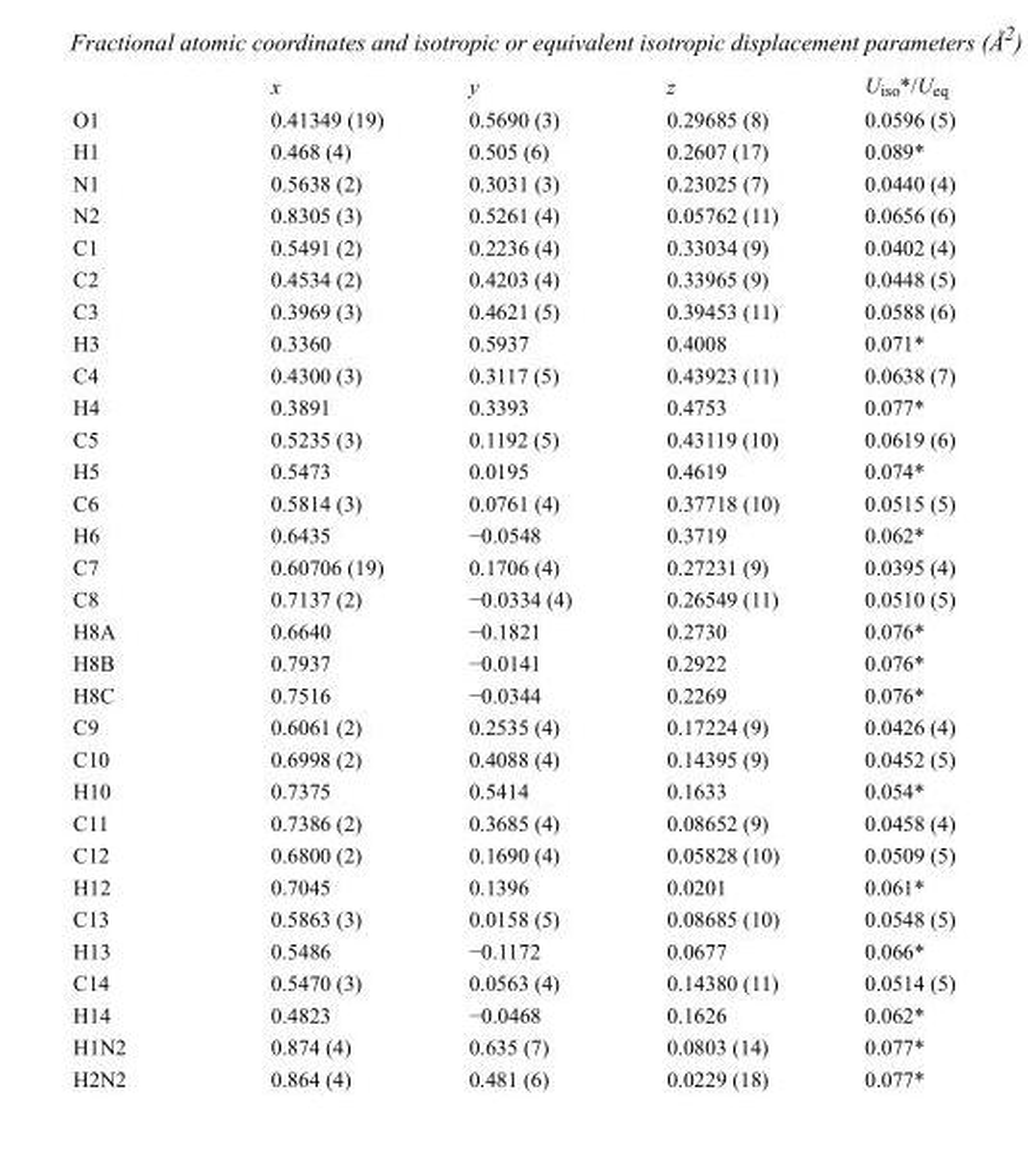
<table><thead><tr><td></td><td>x</td><td>y</td><td>z</td><td>U<sub>iso</sub>*/U<sub>eq</sub></td></tr></thead><tbody><tr><td>O1</td><td>0.41349 (19)</td><td>0.5690 (3)</td><td>0.29685 (8)</td><td>0.0596 (5)</td></tr><tr><td>H1</td><td>0.468 (4)</td><td>0.505 (6)</td><td>0.2607 (17)</td><td>0.089*</td></tr><tr><td>N1</td><td>0.5638 (2)</td><td>0.3031 (3)</td><td>0.23025 (7)</td><td>0.0440 (4)</td></tr><tr><td>N2</td><td>0.8305 (3)</td><td>0.5261 (4)</td><td>0.05762 (11)</td><td>0.0656 (6)</td></tr><tr><td>C1</td><td>0.5491 (2)</td><td>0.2236 (4)</td><td>0.33034 (9)</td><td>0.0402 (4)</td></tr><tr><td>C2</td><td>0.4534 (2)</td><td>0.4203 (4)</td><td>0.33965 (9)</td><td>0.0448 (5)</td></tr><tr><td>C3</td><td>0.3969 (3)</td><td>0.4621 (5)</td><td>0.39453 (11)</td><td>0.0588 (6)</td></tr><tr><td>H3</td><td>0.3360</td><td>0.5937</td><td>0.4008</td><td>0.071*</td></tr><tr><td>C4</td><td>0.4300 (3)</td><td>0.3117 (5)</td><td>0.43923 (11)</td><td>0.0638 (7)</td></tr><tr><td>H4</td><td>0.3891</td><td>0.3393</td><td>0.4753</td><td>0.077*</td></tr><tr><td>C5</td><td>0.5235 (3)</td><td>0.1192 (5)</td><td>0.43119 (10)</td><td>0.0619 (6)</td></tr><tr><td>H5</td><td>0.5473</td><td>0.0195</td><td>0.4619</td><td>0.074*</td></tr><tr><td>C6</td><td>0.5814 (3)</td><td>0.0761 (4)</td><td>0.37718 (10)</td><td>0.0515 (5)</td></tr><tr><td>H6</td><td>0.6435</td><td>−0.0548</td><td>0.3719</td><td>0.062*</td></tr><tr><td>C7</td><td>0.60706 (19)</td><td>0.1706 (4)</td><td>0.27231 (9)</td><td>0.0395 (4)</td></tr><tr><td>C8</td><td>0.7137 (2)</td><td>−0.0334 (4)</td><td>0.26549 (11)</td><td>0.0510 (5)</td></tr><tr><td>H8A</td><td>0.6640</td><td>−0.1821</td><td>0.2730</td><td>0.076*</td></tr><tr><td>H8B</td><td>0.7937</td><td>−0.0141</td><td>0.2922</td><td>0.076*</td></tr><tr><td>H8C</td><td>0.7516</td><td>−0.0344</td><td>0.2269</td><td>0.076*</td></tr><tr><td>C9</td><td>0.6061 (2)</td><td>0.2535 (4)</td><td>0.17224 (9)</td><td>0.0426 (4)</td></tr><tr><td>C10</td><td>0.6998 (2)</td><td>0.4088 (4)</td><td>0.14395 (9)</td><td>0.0452 (5)</td></tr><tr><td>H10</td><td>0.7375</td><td>0.5414</td><td>0.1633</td><td>0.054*</td></tr><tr><td>C11</td><td>0.7386 (2)</td><td>0.3685 (4)</td><td>0.08652 (9)</td><td>0.0458 (4)</td></tr><tr><td>C12</td><td>0.6800 (2)</td><td>0.1690 (4)</td><td>0.05828 (10)</td><td>0.0509 (5)</td></tr><tr><td>H12</td><td>0.7045</td><td>0.1396</td><td>0.0201</td><td>0.061*</td></tr><tr><td>C13</td><td>0.5863 (3)</td><td>0.0158 (5)</td><td>0.08685 (10)</td><td>0.0548 (5)</td></tr><tr><td>H13</td><td>0.5486</td><td>−0.1172</td><td>0.0677</td><td>0.066*</td></tr><tr><td>C14</td><td>0.5470 (3)</td><td>0.0563 (4)</td><td>0.14380 (11)</td><td>0.0514 (5)</td></tr><tr><td>H14</td><td>0.4823</td><td>−0.0468</td><td>0.1626</td><td>0.062*</td></tr><tr><td>H1N2</td><td>0.874 (4)</td><td>0.635 (7)</td><td>0.0803 (14)</td><td>0.077*</td></tr><tr><td>H2N2</td><td>0.864 (4)</td><td>0.481 (6)</td><td>0.0229 (18)</td><td>0.077*</td></tr></tbody></table>